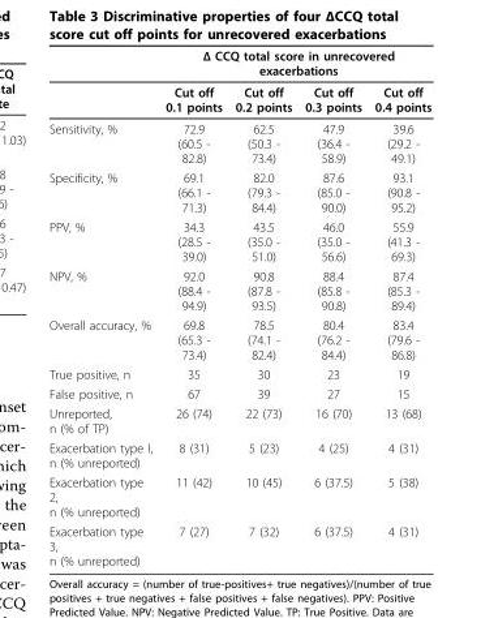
<table><thead><tr><td rowspan="2"></td><td colspan="4">Δ CCQ total score in unrecovered exacerbations</td></tr><tr><td>Cut off 0.1 points</td><td>Cut off 0.2 points</td><td>Cut off 0.3 points</td><td>Cut off 0.4 points</td></tr></thead><tbody><tr><td>Sensitivity, %</td><td>72.9 (60.5 - 82.8)</td><td>62.5 (50.3 - 73.4)</td><td>47.9 (36.4 - 58.9)</td><td>39.6 (29.2 - 49.1)</td></tr><tr><td>Specificity, %</td><td>69.1 (66.1 - 71.3)</td><td>82.0 (79.3 - 84.4)</td><td>87.6 (85.0 - 90.0)</td><td>93.1 (90.8 - 95.2)</td></tr><tr><td>PPV, %</td><td>34.3 (28.5 - 39.0)</td><td>43.5 (35.0 - 51.0)</td><td>46.0 (35.0 - 56.6)</td><td>55.9 (41.3 - 69.3)</td></tr><tr><td>NPV, %</td><td>92.0 (88.4 - 94.9)</td><td>90.8 (87.8 - 93.5)</td><td>88.4 (85.8 - 90.8)</td><td>87.4 (85.3 - 89.4)</td></tr><tr><td>Overall accuracy, %</td><td>69.8 (65.3 - 73.4)</td><td>78.5 (74.1 - 82.4)</td><td>80.4 (76.2 - 84.4)</td><td>83.4 (79.6 - 86.8)</td></tr><tr><td>True positive, n</td><td>35</td><td>30</td><td>23</td><td>19</td></tr><tr><td>False positive, n</td><td>67</td><td>39</td><td>27</td><td>15</td></tr><tr><td>Unreported, n (% of TP)</td><td>26 (74)</td><td>22 (73)</td><td>16 (70)</td><td>13 (68)</td></tr><tr><td>Exacerbation type I, n (% unreported)</td><td>8 (31)</td><td>5 (23)</td><td>4 (25)</td><td>4 (31)</td></tr><tr><td>Exacerbation type 2, n (% unreported)</td><td>11 (42)</td><td>10 (45)</td><td>6 (37.5)</td><td>5 (38)</td></tr><tr><td>Exacerbation type 3, n (% unreported)</td><td>7 (27)</td><td>7 (32)</td><td>6 (37.5)</td><td>4 (31)</td></tr></tbody></table>